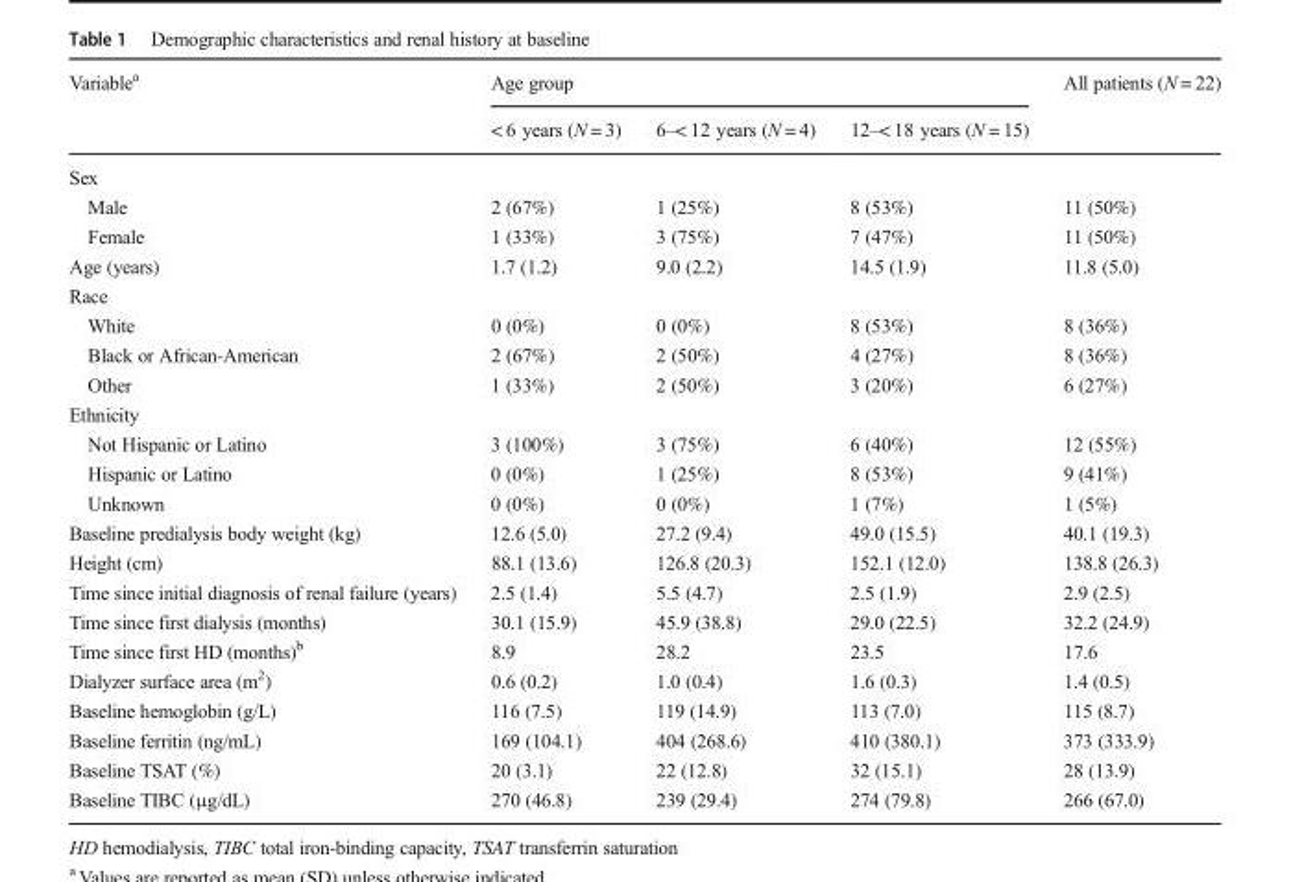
<table><thead><tr><td rowspan="2">Variable<sup>a</sup></td><td colspan="3">Age group</td><td rowspan="2">All patients (N = 22)</td></tr><tr><td>&lt; 6 years (N = 3)</td><td>6–&lt; 12 years (N = 4)</td><td>12–&lt; 18 years (N = 15)</td></tr></thead><tbody><tr><td colspan="5">Sex</td></tr><tr><td>Male</td><td>2 (67%)</td><td>1 (25%)</td><td>8 (53%)</td><td>11 (50%)</td></tr><tr><td>Female</td><td>1 (33%)</td><td>3 (75%)</td><td>7 (47%)</td><td>11 (50%)</td></tr><tr><td>Age (years)</td><td>1.7 (1.2)</td><td>9.0 (2.2)</td><td>14.5 (1.9)</td><td>11.8 (5.0)</td></tr><tr><td colspan="5">Race</td></tr><tr><td>White</td><td>0 (0%)</td><td>0 (0%)</td><td>8 (53%)</td><td>8 (36%)</td></tr><tr><td>Black or African-American</td><td>2 (67%)</td><td>2 (50%)</td><td>4 (27%)</td><td>8 (36%)</td></tr><tr><td>Other</td><td>1 (33%)</td><td>2 (50%)</td><td>3 (20%)</td><td>6 (27%)</td></tr><tr><td colspan="5">Ethnicity</td></tr><tr><td>Not Hispanic or Latino</td><td>3 (100%)</td><td>3 (75%)</td><td>6 (40%)</td><td>12 (55%)</td></tr><tr><td>Hispanic or Latino</td><td>0 (0%)</td><td>1 (25%)</td><td>8 (53%)</td><td>9 (41%)</td></tr><tr><td>Unknown</td><td>0 (0%)</td><td>0 (0%)</td><td>1 (7%)</td><td>1 (5%)</td></tr><tr><td>Baseline predialysis body weight (kg)</td><td>12.6 (5.0)</td><td>27.2 (9.4)</td><td>49.0 (15.5)</td><td>40.1 (19.3)</td></tr><tr><td>Height (cm)</td><td>88.1 (13.6)</td><td>126.8 (20.3)</td><td>152.1 (12.0)</td><td>138.8 (26.3)</td></tr><tr><td>Time since initial diagnosis of renal failure (years)</td><td>2.5 (1.4)</td><td>5.5 (4.7)</td><td>2.5 (1.9)</td><td>2.9 (2.5)</td></tr><tr><td>Time since first dialysis (months)</td><td>30.1 (15.9)</td><td>45.9 (38.8)</td><td>29.0 (22.5)</td><td>32.2 (24.9)</td></tr><tr><td>Time since first HD (months)<sup>b</sup></td><td>8.9</td><td>28.2</td><td>23.5</td><td>17.6</td></tr><tr><td>Dialyzer surface area (m<sup>2</sup>)</td><td>0.6 (0.2)</td><td>1.0 (0.4)</td><td>1.6 (0.3)</td><td>1.4 (0.5)</td></tr><tr><td>Baseline hemoglobin (g/L)</td><td>116 (7.5)</td><td>119 (14.9)</td><td>113 (7.0)</td><td>115 (8.7)</td></tr><tr><td>Baseline ferritin (ng/mL)</td><td>169 (104.1)</td><td>404 (268.6)</td><td>410 (380.1)</td><td>373 (333.9)</td></tr><tr><td>Baseline TSAT (%)</td><td>20 (3.1)</td><td>22 (12.8)</td><td>32 (15.1)</td><td>28 (13.9)</td></tr><tr><td>Baseline TIBC (μg/dL)</td><td>270 (46.8)</td><td>239 (29.4)</td><td>274 (79.8)</td><td>266 (67.0)</td></tr></tbody></table>